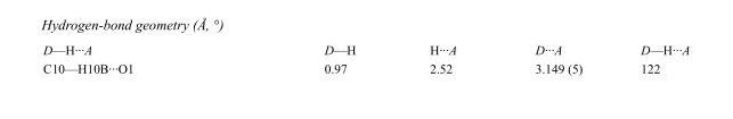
<table><tbody><tr><td>D—H···A</td><td>D—H</td><td>H···A</td><td>D···A</td><td>D—H···A</td></tr><tr><td>C10—H10B···O1</td><td>0.97</td><td>2.52</td><td>3.149 (5)</td><td>122</td></tr></tbody></table>